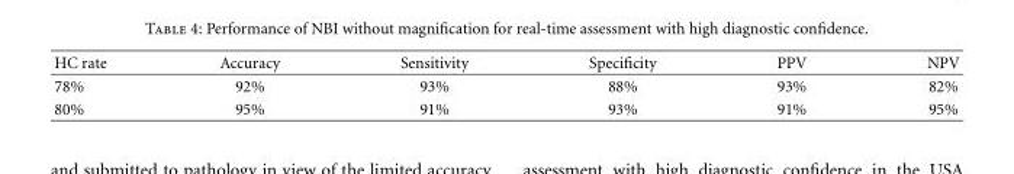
<table><thead><tr><td>HC rate</td><td>Accuracy</td><td>Sensitivity</td><td>Specificity</td><td>PPV</td><td>NPV</td></tr></thead><tbody><tr><td>78%</td><td>92%</td><td>93%</td><td>88%</td><td>93%</td><td>82%</td></tr><tr><td>80%</td><td>95%</td><td>91%</td><td>93%</td><td>91%</td><td>95%</td></tr></tbody></table>